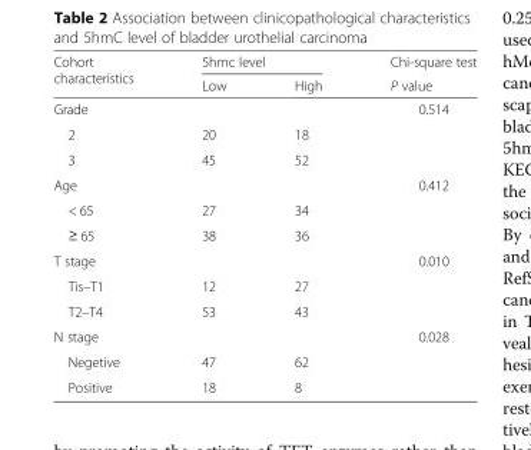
<table><thead><tr><td rowspan="2">Cohort characteristics</td><td colspan="2">5hmc level</td><td rowspan="2">Chi-square test P value</td></tr><tr><td>Low</td><td>High</td></tr></thead><tbody><tr><td>Grade</td><td></td><td></td><td>0.514</td></tr><tr><td>2</td><td>20</td><td>18</td><td></td></tr><tr><td>3</td><td>45</td><td>52</td><td></td></tr><tr><td>Age</td><td></td><td></td><td>0.412</td></tr><tr><td>&lt; 65</td><td>27</td><td>34</td><td></td></tr><tr><td>≥ 65</td><td>38</td><td>36</td><td></td></tr><tr><td>T stage</td><td></td><td></td><td>0.010</td></tr><tr><td>Tis–T1</td><td>12</td><td>27</td><td></td></tr><tr><td>T2–T4</td><td>53</td><td>43</td><td></td></tr><tr><td>N stage</td><td></td><td></td><td>0.028</td></tr><tr><td>Negetive</td><td>47</td><td>62</td><td></td></tr><tr><td>Positive</td><td>18</td><td>8</td><td></td></tr></tbody></table>